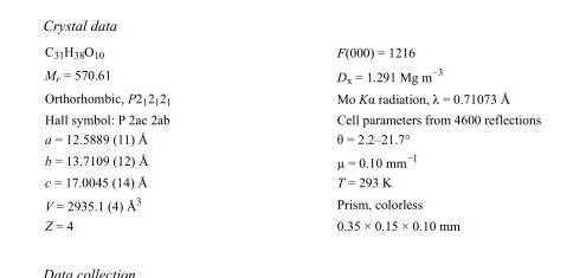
<table><tbody><tr><td>C<sub>31</sub>H<sub>38</sub>O<sub>10</sub></td><td>F(000) = 1216</td></tr><tr><td>M<sub>r</sub> = 570.61</td><td>D<sub>x</sub> = 1.291 Mg m<sup>−3</sup></td></tr><tr><td>Orthorhombic, P2<sub>1</sub>2<sub>1</sub>2<sub>1</sub></td><td>Mo Kα radiation, λ = 0.71073 Å</td></tr><tr><td>Hall symbol: P 2ac 2ab</td><td>Cell parameters from 4600 reflections</td></tr><tr><td>a = 12.5889 (11) Å</td><td>θ = 2.2–21.7°</td></tr><tr><td>b = 13.7109 (12) Å</td><td>µ = 0.10 mm<sup>−1</sup></td></tr><tr><td>c = 17.0045 (14) Å</td><td>T = 293 K</td></tr><tr><td>V = 2935.1 (4) Å<sup>3</sup></td><td>Prism, colorless</td></tr><tr><td>Z = 4</td><td>0.35 × 0.15 × 0.10 mm</td></tr></tbody></table>